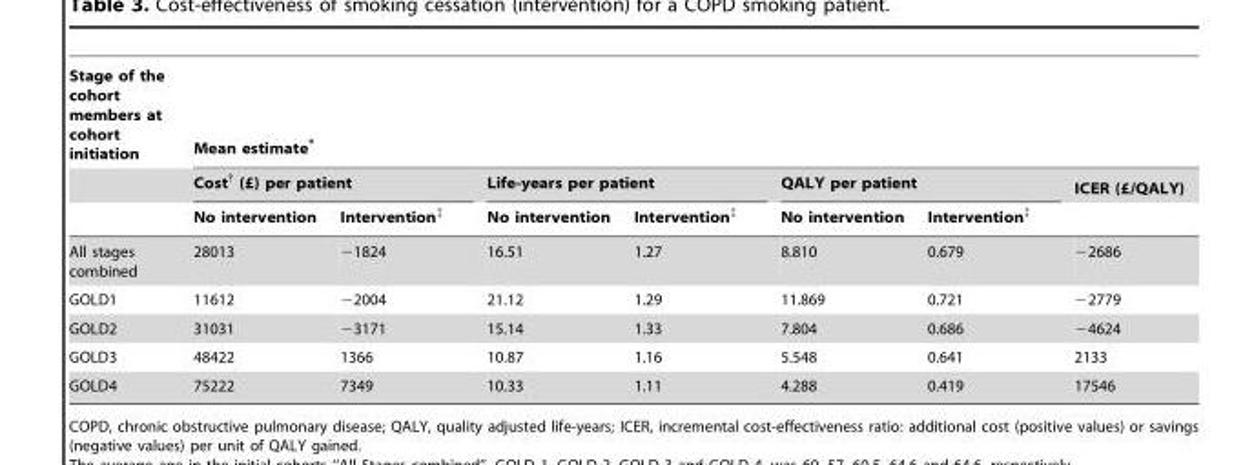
<table><thead><tr><td rowspan="3">Stage of the cohort members at cohort initiation</td><td colspan="7">Mean estimate*</td></tr><tr><td colspan="2">Cost† (£) per patient</td><td colspan="2">Life-years per patient</td><td colspan="2">QALY per patient</td><td rowspan="2">ICER (£/QALY)</td></tr><tr><td>No intervention</td><td>Intervention‡</td><td>No intervention</td><td>Intervention‡</td><td>No intervention</td><td>Intervention‡</td></tr></thead><tbody><tr><td>All stages combined</td><td>28013</td><td>−1824</td><td>16.51</td><td>1.27</td><td>8.810</td><td>0.679</td><td>−2686</td></tr><tr><td>GOLD1</td><td>11612</td><td>−2004</td><td>21.12</td><td>1.29</td><td>11.869</td><td>0.721</td><td>−2779</td></tr><tr><td>GOLD2</td><td>31031</td><td>−3171</td><td>15.14</td><td>1.33</td><td>7.804</td><td>0.686</td><td>−4624</td></tr><tr><td>GOLD3</td><td>48422</td><td>1366</td><td>10.87</td><td>1.16</td><td>5.548</td><td>0.641</td><td>2133</td></tr><tr><td>GOLD4</td><td>75222</td><td>7349</td><td>10.33</td><td>1.11</td><td>4.288</td><td>0.419</td><td>17546</td></tr></tbody></table>